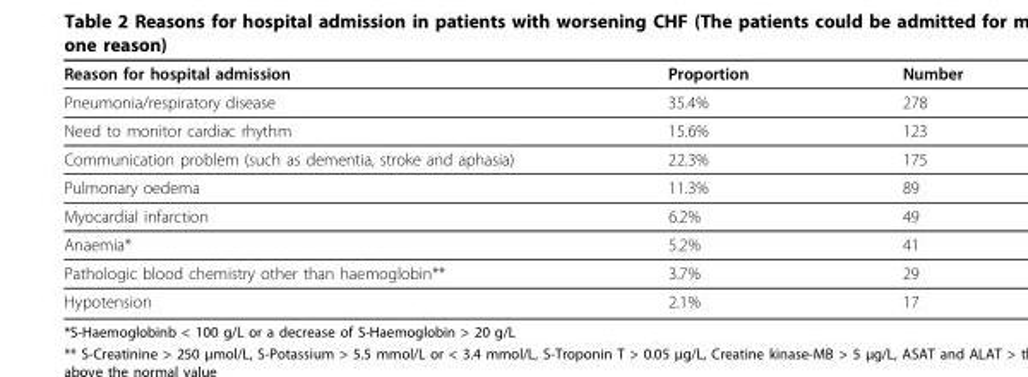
<table><thead><tr><td>Reason for hospital admission</td><td>Proportion</td><td>Number</td></tr></thead><tbody><tr><td>Pneumonia/respiratory disease</td><td>35.4%</td><td>278</td></tr><tr><td>Need to monitor cardiac rhythm</td><td>15.6%</td><td>123</td></tr><tr><td>Communication problem (such as dementia, stroke and aphasia)</td><td>22.3%</td><td>175</td></tr><tr><td>Pulmonary oedema</td><td>11.3%</td><td>89</td></tr><tr><td>Myocardial infarction</td><td>6.2%</td><td>49</td></tr><tr><td>Anaemia*</td><td>5.2%</td><td>41</td></tr><tr><td>Pathologic blood chemistry other than haemoglobin**</td><td>3.7%</td><td>29</td></tr><tr><td>Hypotension</td><td>2.1%</td><td>17</td></tr></tbody></table>